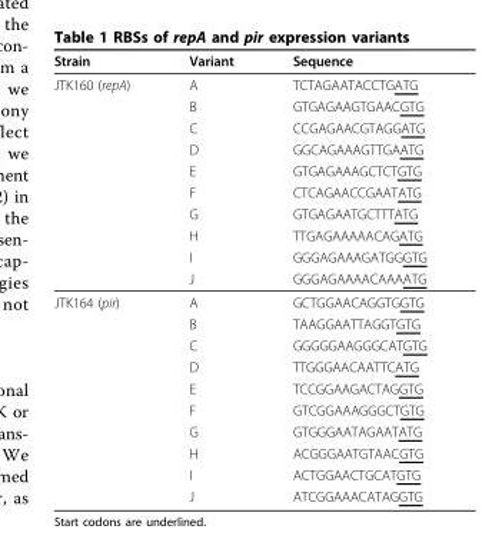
<table><thead><tr><td>Strain</td><td>Variant</td><td>Sequence</td></tr></thead><tbody><tr><td rowspan="10">JTK160 (repA)</td><td>A</td><td>TCTAGAATACCTGATG</td></tr><tr><td>B</td><td>GTGAGAAGTGAACGTG</td></tr><tr><td>C</td><td>CCGAGAACGTAGGATG</td></tr><tr><td>D</td><td>GGCAGAAAGTTGAATG</td></tr><tr><td>E</td><td>GTGAGAAAGCTCTGTG</td></tr><tr><td>F</td><td>CTCAGAACCGAATATG</td></tr><tr><td>G</td><td>GTGAGAATGCTTTATG</td></tr><tr><td>H</td><td>TTGAGAAAAACAGATG</td></tr><tr><td>I</td><td>GGGAGAAAGATGGGTG</td></tr><tr><td>J</td><td>GGGAGAAAACAAAATG</td></tr><tr><td rowspan="10">JTK164 (pir)</td><td>A</td><td>GCTGGAACAGGTGGTG</td></tr><tr><td>B</td><td>TAAGGAATTAGGTGTG</td></tr><tr><td>C</td><td>GGGGGAAGGGCATGTG</td></tr><tr><td>D</td><td>TTGGGAACAATTCATG</td></tr><tr><td>E</td><td>TCCGGAAGACTAGGTG</td></tr><tr><td>F</td><td>GTCGGAAAGGGCTGTG</td></tr><tr><td>G</td><td>GTGGGAATAGAATATG</td></tr><tr><td>H</td><td>ACGGGAATGTAACGTG</td></tr><tr><td>I</td><td>ACTGGAACTGCATGTG</td></tr><tr><td>J</td><td>ATCGGAAACATAGGTG</td></tr></tbody></table>